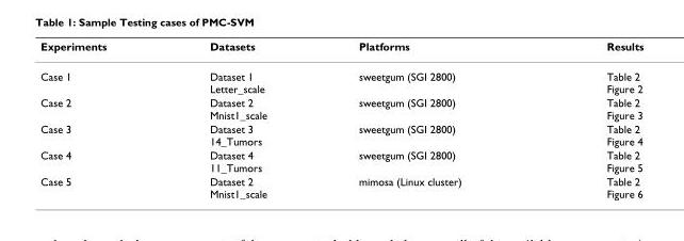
<table><thead><tr><td>Experiments</td><td>Datasets</td><td>Platforms</td><td>Results</td></tr></thead><tbody><tr><td>Case 1</td><td>Dataset 1 Letter_scale</td><td>sweetgum (SGI 2800)</td><td>Table 2 Figure 2</td></tr><tr><td>Case 2</td><td>Dataset 2 Mnist1_scale</td><td>sweetgum (SGI 2800)</td><td>Table 2 Figure 3</td></tr><tr><td>Case 3</td><td>Dataset 3 14_Tumors</td><td>sweetgum (SGI 2800)</td><td>Table 2 Figure 4</td></tr><tr><td>Case 4</td><td>Dataset 4 11_Tumors</td><td>sweetgum (SGI 2800)</td><td>Table 2 Figure 5</td></tr><tr><td>Case 5</td><td>Dataset 2 Mnist1_scale</td><td>mimosa (Linux cluster)</td><td>Table 2 Figure 6</td></tr></tbody></table>